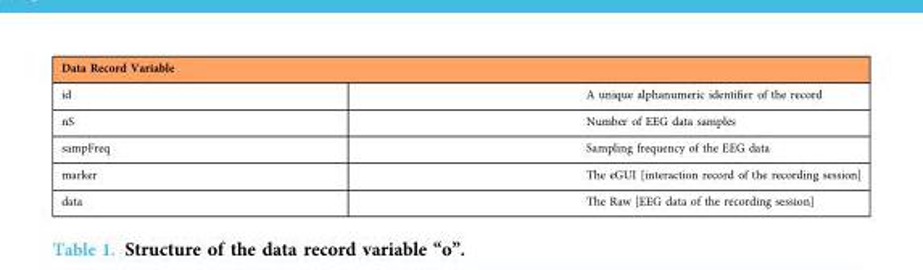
<table><thead><tr><td colspan="2">Data Record Variable</td></tr><tr><td>id</td><td>A unique alphanumeric identifier of the record</td></tr></thead><tbody><tr><td>nS</td><td>Number of EEG data samples</td></tr><tr><td>sampFreq</td><td>Sampling frequency of the EEG data</td></tr><tr><td>marker</td><td>The eGUI [interaction record of the recording session]</td></tr><tr><td>data</td><td>The Raw [EEG data of the recording session]</td></tr></tbody></table>